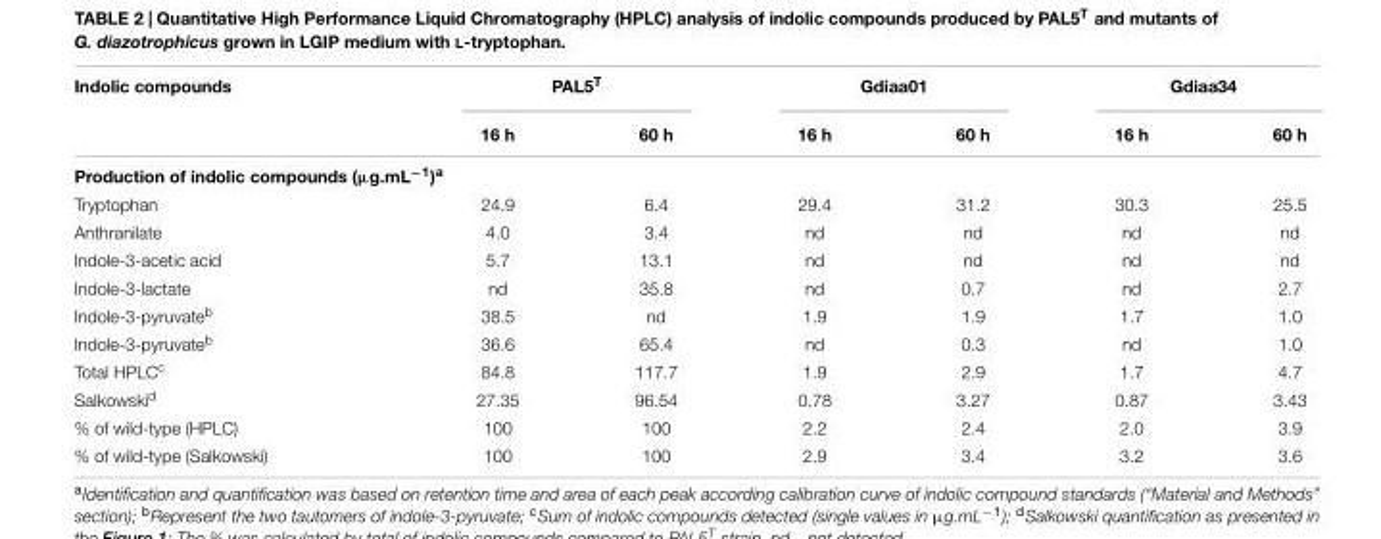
<table><thead><tr><td rowspan="2">Indolic compounds</td><td colspan="2">PAL5<sup>T</sup></td><td colspan="2">Gdiaa01</td><td colspan="2">Gdiaa34</td></tr><tr><td>16 h</td><td>60 h</td><td>16 h</td><td>60 h</td><td>16 h</td><td>60 h</td></tr></thead><tbody><tr><td colspan="7">Production of indolic compounds (µg.mL<sup>−1</sup>)<sup>a</sup></td></tr><tr><td>Tryptophan</td><td>24.9</td><td>6.4</td><td>29.4</td><td>31.2</td><td>30.3</td><td>25.5</td></tr><tr><td>Anthranilate</td><td>4.0</td><td>3.4</td><td>nd</td><td>nd</td><td>nd</td><td>nd</td></tr><tr><td>Indole-3-acetic acid</td><td>5.7</td><td>13.1</td><td>nd</td><td>nd</td><td>nd</td><td>nd</td></tr><tr><td>Indole-3-lactate</td><td>nd</td><td>35.8</td><td>nd</td><td>0.7</td><td>nd</td><td>2.7</td></tr><tr><td>Indole-3-pyruvate<sup>b</sup></td><td>38.5</td><td>nd</td><td>1.9</td><td>1.9</td><td>1.7</td><td>1.0</td></tr><tr><td>Indole-3-pyruvate<sup>b</sup></td><td>36.6</td><td>65.4</td><td>nd</td><td>0.3</td><td>nd</td><td>1.0</td></tr><tr><td>Total HPLC<sup>c</sup></td><td>84.8</td><td>117.7</td><td>1.9</td><td>2.9</td><td>1.7</td><td>4.7</td></tr><tr><td>Salkowski<sup>d</sup></td><td>27.35</td><td>96.54</td><td>0.78</td><td>3.27</td><td>0.87</td><td>3.43</td></tr><tr><td>% of wild-type (HPLC)</td><td>100</td><td>100</td><td>2.2</td><td>2.4</td><td>2.0</td><td>3.9</td></tr><tr><td>% of wild-type (Salkowski)</td><td>100</td><td>100</td><td>2.9</td><td>3.4</td><td>3.2</td><td>3.6</td></tr></tbody></table>